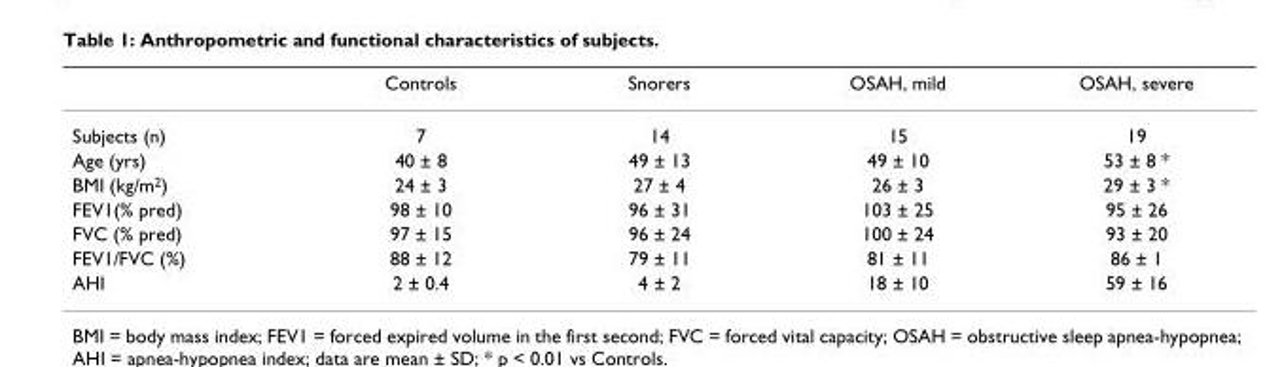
<table><thead><tr><td></td><td>Controls</td><td>Snorers</td><td>OSAH, mild</td><td>OSAH, severe</td></tr></thead><tbody><tr><td>Subjects (n)</td><td>7</td><td>14</td><td>15</td><td>19</td></tr><tr><td>Age (yrs)</td><td>40 ± 8</td><td>49 ± 13</td><td>49 ± 10</td><td>53 ± 8 *</td></tr><tr><td>BMI (kg/m<sup>2</sup>)</td><td>24 ± 3</td><td>27 ± 4</td><td>26 ± 3</td><td>29 ± 3 *</td></tr><tr><td>FEV1(% pred)</td><td>98 ± 10</td><td>96 ± 31</td><td>103 ± 25</td><td>95 ± 26</td></tr><tr><td>FVC (% pred)</td><td>97 ± 15</td><td>96 ± 24</td><td>100 ± 24</td><td>93 ± 20</td></tr><tr><td>FEV1/FVC (%)</td><td>88 ± 12</td><td>79 ± 11</td><td>81 ± 11</td><td>86 ± 1</td></tr><tr><td>AHI</td><td>2 ± 0.4</td><td>4 ± 2</td><td>18 ± 10</td><td>59 ± 16</td></tr></tbody></table>